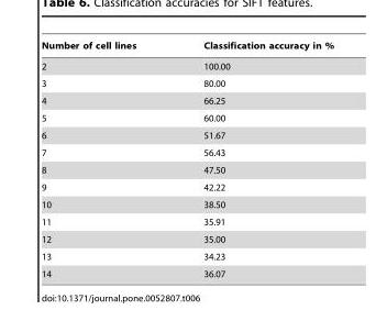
<table><thead><tr><td>Number of cell lines</td><td>Classification accuracy in %</td></tr></thead><tbody><tr><td>2</td><td>100.00</td></tr><tr><td>3</td><td>80.00</td></tr><tr><td>4</td><td>66.25</td></tr><tr><td>5</td><td>60.00</td></tr><tr><td>6</td><td>51.67</td></tr><tr><td>7</td><td>56.43</td></tr><tr><td>8</td><td>47.50</td></tr><tr><td>9</td><td>42.22</td></tr><tr><td>10</td><td>38.50</td></tr><tr><td>11</td><td>35.91</td></tr><tr><td>12</td><td>35.00</td></tr><tr><td>13</td><td>34.23</td></tr><tr><td>14</td><td>36.07</td></tr></tbody></table>